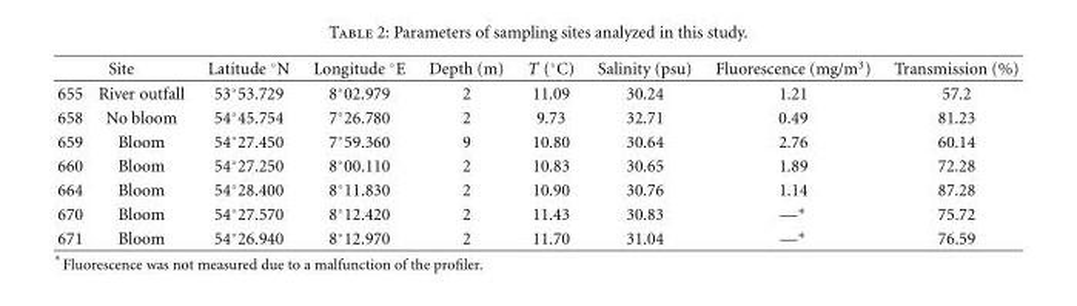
<table><thead><tr><td colspan="2">Site</td><td rowspan="2">Latitude ◦N 53◦53.729</td><td rowspan="2">Longitude ◦E 8◦02.979</td><td rowspan="2">Depth (m) 2</td><td rowspan="2">T (◦C) 11.09</td><td rowspan="2">Salinity (psu) 30.24</td><td rowspan="2">Fluorescence (mg/m<sup>3</sup>) 1.21</td><td rowspan="2">Transmission (%) 57.2</td></tr><tr><td>655</td><td>River outfall</td></tr></thead><tbody><tr><td>658</td><td>No bloom</td><td>54◦45.754</td><td>7◦26.780</td><td>2</td><td>9.73</td><td>32.71</td><td>0.49</td><td>81.23</td></tr><tr><td>659</td><td>Bloom</td><td>54◦27.450</td><td>7◦59.360</td><td>9</td><td>10.80</td><td>30.64</td><td>2.76</td><td>60.14</td></tr><tr><td>660</td><td>Bloom</td><td>54◦27.250</td><td>8◦00.110</td><td>2</td><td>10.83</td><td>30.65</td><td>1.89</td><td>72.28</td></tr><tr><td>664</td><td>Bloom</td><td>54◦28.400</td><td>8◦11.830</td><td>2</td><td>10.90</td><td>30.76</td><td>1.14</td><td>87.28</td></tr><tr><td>670</td><td>Bloom</td><td>54◦27.570</td><td>8◦12.420</td><td>2</td><td>11.43</td><td>30.83</td><td>—∗</td><td>75.72</td></tr><tr><td>671</td><td>Bloom</td><td>54◦26.940</td><td>8◦12.970</td><td>2</td><td>11.70</td><td>31.04</td><td>—∗</td><td>76.59</td></tr></tbody></table>